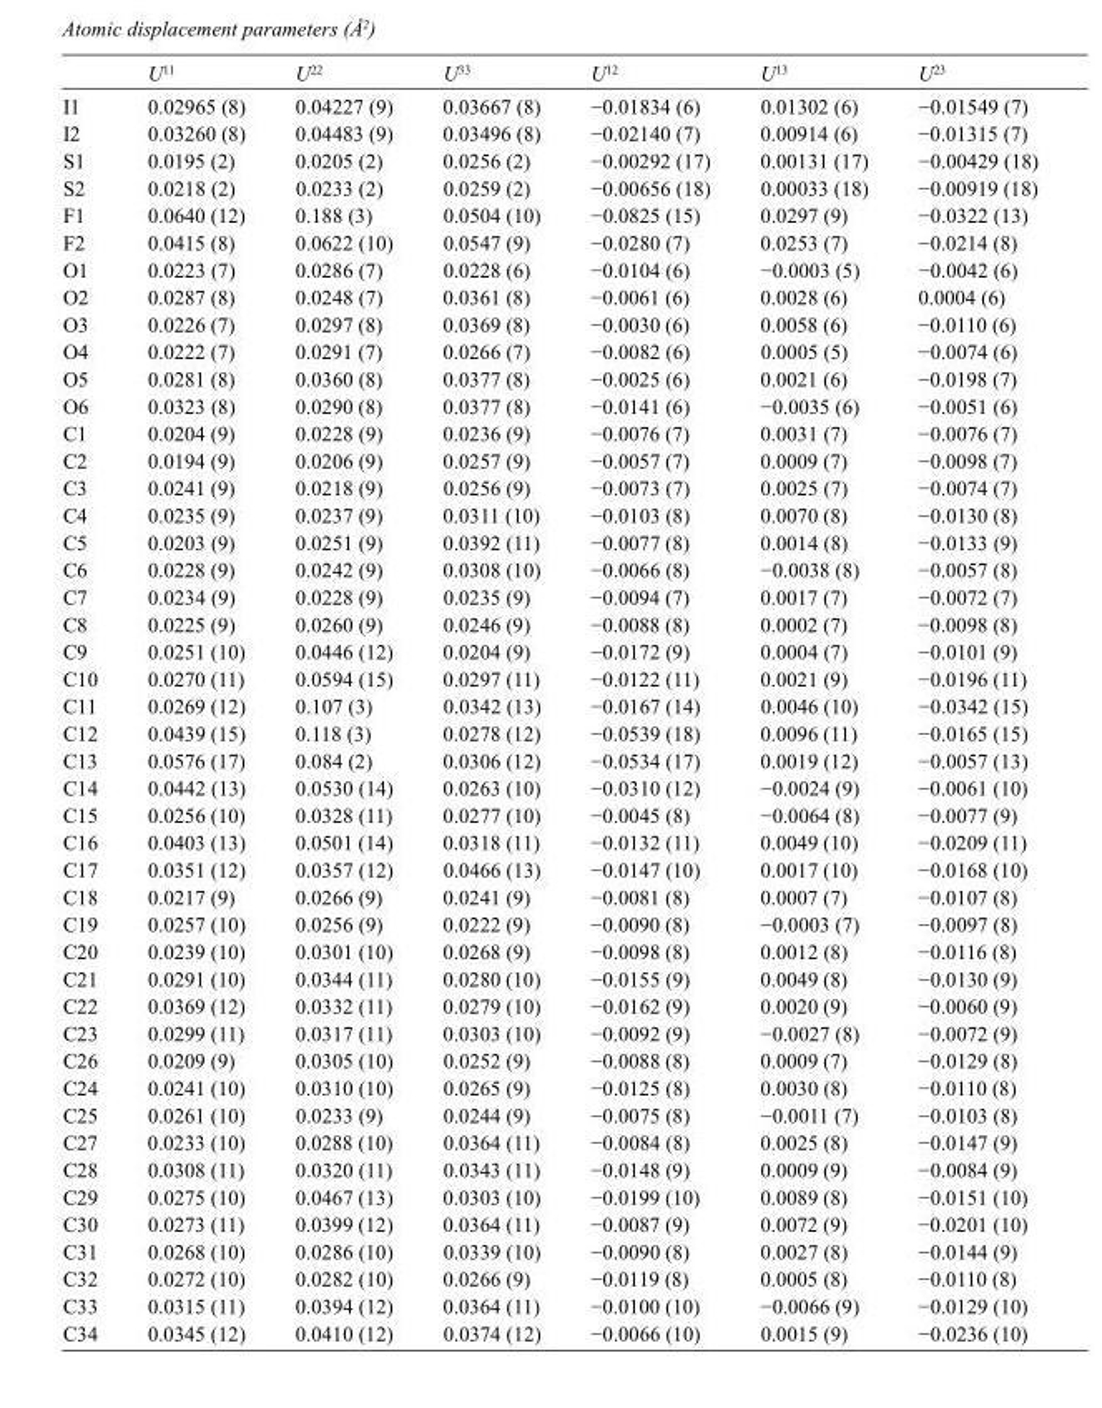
<table><thead><tr><td></td><td>U<sup>11</sup></td><td>U<sup>22</sup></td><td>U<sup>33</sup></td><td>U<sup>12</sup></td><td>U<sup>13</sup></td><td>U<sup>23</sup></td></tr></thead><tbody><tr><td>I1</td><td>0.02965 (8)</td><td>0.04227 (9)</td><td>0.03667 (8)</td><td>−0.01834 (6)</td><td>0.01302 (6)</td><td>−0.01549 (7)</td></tr><tr><td>I2</td><td>0.03260 (8)</td><td>0.04483 (9)</td><td>0.03496 (8)</td><td>−0.02140 (7)</td><td>0.00914 (6)</td><td>−0.01315 (7)</td></tr><tr><td>S1</td><td>0.0195 (2)</td><td>0.0205 (2)</td><td>0.0256 (2)</td><td>−0.00292 (17)</td><td>0.00131 (17)</td><td>−0.00429 (18)</td></tr><tr><td>S2</td><td>0.0218 (2)</td><td>0.0233 (2)</td><td>0.0259 (2)</td><td>−0.00656 (18)</td><td>0.00033 (18)</td><td>−0.00919 (18)</td></tr><tr><td>F1</td><td>0.0640 (12)</td><td>0.188 (3)</td><td>0.0504 (10)</td><td>−0.0825 (15)</td><td>0.0297 (9)</td><td>−0.0322 (13)</td></tr><tr><td>F2</td><td>0.0415 (8)</td><td>0.0622 (10)</td><td>0.0547 (9)</td><td>−0.0280 (7)</td><td>0.0253 (7)</td><td>−0.0214 (8)</td></tr><tr><td>O1</td><td>0.0223 (7)</td><td>0.0286 (7)</td><td>0.0228 (6)</td><td>−0.0104 (6)</td><td>−0.0003 (5)</td><td>−0.0042 (6)</td></tr><tr><td>O2</td><td>0.0287 (8)</td><td>0.0248 (7)</td><td>0.0361 (8)</td><td>−0.0061 (6)</td><td>0.0028 (6)</td><td>0.0004 (6)</td></tr><tr><td>O3</td><td>0.0226 (7)</td><td>0.0297 (8)</td><td>0.0369 (8)</td><td>−0.0030 (6)</td><td>0.0058 (6)</td><td>−0.0110 (6)</td></tr><tr><td>O4</td><td>0.0222 (7)</td><td>0.0291 (7)</td><td>0.0266 (7)</td><td>−0.0082 (6)</td><td>0.0005 (5)</td><td>−0.0074 (6)</td></tr><tr><td>O5</td><td>0.0281 (8)</td><td>0.0360 (8)</td><td>0.0377 (8)</td><td>−0.0025 (6)</td><td>0.0021 (6)</td><td>−0.0198 (7)</td></tr><tr><td>O6</td><td>0.0323 (8)</td><td>0.0290 (8)</td><td>0.0377 (8)</td><td>−0.0141 (6)</td><td>−0.0035 (6)</td><td>−0.0051 (6)</td></tr><tr><td>C1</td><td>0.0204 (9)</td><td>0.0228 (9)</td><td>0.0236 (9)</td><td>−0.0076 (7)</td><td>0.0031 (7)</td><td>−0.0076 (7)</td></tr><tr><td>C2</td><td>0.0194 (9)</td><td>0.0206 (9)</td><td>0.0257 (9)</td><td>−0.0057 (7)</td><td>0.0009 (7)</td><td>−0.0098 (7)</td></tr><tr><td>C3</td><td>0.0241 (9)</td><td>0.0218 (9)</td><td>0.0256 (9)</td><td>−0.0073 (7)</td><td>0.0025 (7)</td><td>−0.0074 (7)</td></tr><tr><td>C4</td><td>0.0235 (9)</td><td>0.0237 (9)</td><td>0.0311 (10)</td><td>−0.0103 (8)</td><td>0.0070 (8)</td><td>−0.0130 (8)</td></tr><tr><td>C5</td><td>0.0203 (9)</td><td>0.0251 (9)</td><td>0.0392 (11)</td><td>−0.0077 (8)</td><td>0.0014 (8)</td><td>−0.0133 (9)</td></tr><tr><td>C6</td><td>0.0228 (9)</td><td>0.0242 (9)</td><td>0.0308 (10)</td><td>−0.0066 (8)</td><td>−0.0038 (8)</td><td>−0.0057 (8)</td></tr><tr><td>C7</td><td>0.0234 (9)</td><td>0.0228 (9)</td><td>0.0235 (9)</td><td>−0.0094 (7)</td><td>0.0017 (7)</td><td>−0.0072 (7)</td></tr><tr><td>C8</td><td>0.0225 (9)</td><td>0.0260 (9)</td><td>0.0246 (9)</td><td>−0.0088 (8)</td><td>0.0002 (7)</td><td>−0.0098 (8)</td></tr><tr><td>C9</td><td>0.0251 (10)</td><td>0.0446 (12)</td><td>0.0204 (9)</td><td>−0.0172 (9)</td><td>0.0004 (7)</td><td>−0.0101 (9)</td></tr><tr><td>C10</td><td>0.0270 (11)</td><td>0.0594 (15)</td><td>0.0297 (11)</td><td>−0.0122 (11)</td><td>0.0021 (9)</td><td>−0.0196 (11)</td></tr><tr><td>C11</td><td>0.0269 (12)</td><td>0.107 (3)</td><td>0.0342 (13)</td><td>−0.0167 (14)</td><td>0.0046 (10)</td><td>−0.0342 (15)</td></tr><tr><td>C12</td><td>0.0439 (15)</td><td>0.118 (3)</td><td>0.0278 (12)</td><td>−0.0539 (18)</td><td>0.0096 (11)</td><td>−0.0165 (15)</td></tr><tr><td>C13</td><td>0.0576 (17)</td><td>0.084 (2)</td><td>0.0306 (12)</td><td>−0.0534 (17)</td><td>0.0019 (12)</td><td>−0.0057 (13)</td></tr><tr><td>C14</td><td>0.0442 (13)</td><td>0.0530 (14)</td><td>0.0263 (10)</td><td>−0.0310 (12)</td><td>−0.0024 (9)</td><td>−0.0061 (10)</td></tr><tr><td>C15</td><td>0.0256 (10)</td><td>0.0328 (11)</td><td>0.0277 (10)</td><td>−0.0045 (8)</td><td>−0.0064 (8)</td><td>−0.0077 (9)</td></tr><tr><td>C16</td><td>0.0403 (13)</td><td>0.0501 (14)</td><td>0.0318 (11)</td><td>−0.0132 (11)</td><td>0.0049 (10)</td><td>−0.0209 (11)</td></tr><tr><td>C17</td><td>0.0351 (12)</td><td>0.0357 (12)</td><td>0.0466 (13)</td><td>−0.0147 (10)</td><td>0.0017 (10)</td><td>−0.0168 (10)</td></tr><tr><td>C18</td><td>0.0217 (9)</td><td>0.0266 (9)</td><td>0.0241 (9)</td><td>−0.0081 (8)</td><td>0.0007 (7)</td><td>−0.0107 (8)</td></tr><tr><td>C19</td><td>0.0257 (10)</td><td>0.0256 (9)</td><td>0.0222 (9)</td><td>−0.0090 (8)</td><td>−0.0003 (7)</td><td>−0.0097 (8)</td></tr><tr><td>C20</td><td>0.0239 (10)</td><td>0.0301 (10)</td><td>0.0268 (9)</td><td>−0.0098 (8)</td><td>0.0012 (8)</td><td>−0.0116 (8)</td></tr><tr><td>C21</td><td>0.0291 (10)</td><td>0.0344 (11)</td><td>0.0280 (10)</td><td>−0.0155 (9)</td><td>0.0049 (8)</td><td>−0.0130 (9)</td></tr><tr><td>C22</td><td>0.0369 (12)</td><td>0.0332 (11)</td><td>0.0279 (10)</td><td>−0.0162 (9)</td><td>0.0020 (9)</td><td>−0.0060 (9)</td></tr><tr><td>C23</td><td>0.0299 (11)</td><td>0.0317 (11)</td><td>0.0303 (10)</td><td>−0.0092 (9)</td><td>−0.0027 (8)</td><td>−0.0072 (9)</td></tr><tr><td>C26</td><td>0.0209 (9)</td><td>0.0305 (10)</td><td>0.0252 (9)</td><td>−0.0088 (8)</td><td>0.0009 (7)</td><td>−0.0129 (8)</td></tr><tr><td>C24</td><td>0.0241 (10)</td><td>0.0310 (10)</td><td>0.0265 (9)</td><td>−0.0125 (8)</td><td>0.0030 (8)</td><td>−0.0110 (8)</td></tr><tr><td>C25</td><td>0.0261 (10)</td><td>0.0233 (9)</td><td>0.0244 (9)</td><td>−0.0075 (8)</td><td>−0.0011 (7)</td><td>−0.0103 (8)</td></tr><tr><td>C27</td><td>0.0233 (10)</td><td>0.0288 (10)</td><td>0.0364 (11)</td><td>−0.0084 (8)</td><td>0.0025 (8)</td><td>−0.0147 (9)</td></tr><tr><td>C28</td><td>0.0308 (11)</td><td>0.0320 (11)</td><td>0.0343 (11)</td><td>−0.0148 (9)</td><td>0.0009 (9)</td><td>−0.0084 (9)</td></tr><tr><td>C29</td><td>0.0275 (10)</td><td>0.0467 (13)</td><td>0.0303 (10)</td><td>−0.0199 (10)</td><td>0.0089 (8)</td><td>−0.0151 (10)</td></tr><tr><td>C30</td><td>0.0273 (11)</td><td>0.0399 (12)</td><td>0.0364 (11)</td><td>−0.0087 (9)</td><td>0.0072 (9)</td><td>−0.0201 (10)</td></tr><tr><td>C31</td><td>0.0268 (10)</td><td>0.0286 (10)</td><td>0.0339 (10)</td><td>−0.0090 (8)</td><td>0.0027 (8)</td><td>−0.0144 (9)</td></tr><tr><td>C32</td><td>0.0272 (10)</td><td>0.0282 (10)</td><td>0.0266 (9)</td><td>−0.0119 (8)</td><td>0.0005 (8)</td><td>−0.0110 (8)</td></tr><tr><td>C33</td><td>0.0315 (11)</td><td>0.0394 (12)</td><td>0.0364 (11)</td><td>−0.0100 (10)</td><td>−0.0066 (9)</td><td>−0.0129 (10)</td></tr><tr><td>C34</td><td>0.0345 (12)</td><td>0.0410 (12)</td><td>0.0374 (12)</td><td>−0.0066 (10)</td><td>0.0015 (9)</td><td>−0.0236 (10)</td></tr></tbody></table>